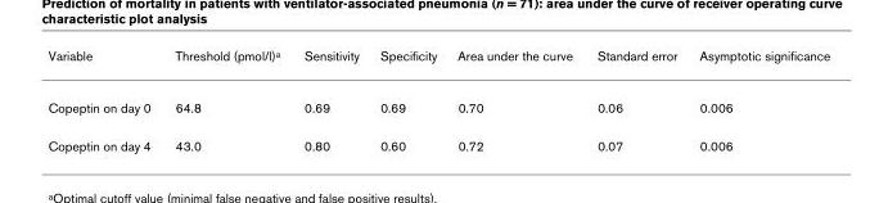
<table><thead><tr><td>Variable</td><td>Threshold (pmol/l)<sup>a</sup></td><td>Sensitivity</td><td>Specificity</td><td>Area under the curve</td><td>Standard error</td><td>Asymptotic significance</td></tr></thead><tbody><tr><td>Copeptin on day 0</td><td>64.8</td><td>0.69</td><td>0.69</td><td>0.70</td><td>0.06</td><td>0.006</td></tr><tr><td>Copeptin on day 4</td><td>43.0</td><td>0.80</td><td>0.60</td><td>0.72</td><td>0.07</td><td>0.006</td></tr></tbody></table>